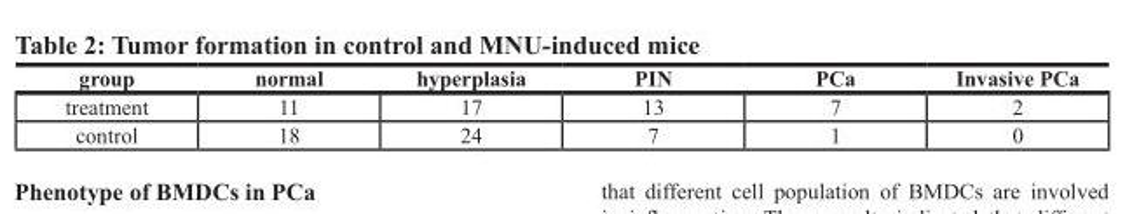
<table><thead><tr><td>group</td><td>normal</td><td>hyperplasia</td><td>PIN</td><td>PCa</td><td>Invasive PCa</td></tr></thead><tbody><tr><td>treatment</td><td>11</td><td>17</td><td>13</td><td>7</td><td>2</td></tr><tr><td>control</td><td>18</td><td>24</td><td>7</td><td>1</td><td>0</td></tr></tbody></table>